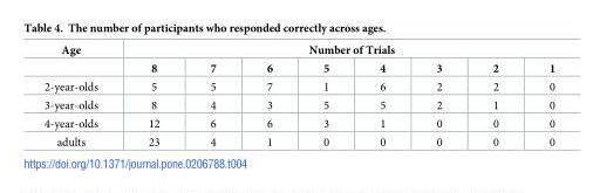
<table><thead><tr><td rowspan="2">Age</td><td colspan="8">Number of Trials</td></tr><tr><td>8</td><td>7</td><td>6</td><td>5</td><td>4</td><td>3</td><td>2</td><td>1</td></tr></thead><tbody><tr><td>2-year-olds</td><td>5</td><td>5</td><td>7</td><td>1</td><td>6</td><td>2</td><td>2</td><td>0</td></tr><tr><td>3-year-olds</td><td>8</td><td>4</td><td>3</td><td>5</td><td>5</td><td>2</td><td>1</td><td>0</td></tr><tr><td>4-year-olds</td><td>12</td><td>6</td><td>6</td><td>3</td><td>1</td><td>0</td><td>0</td><td>0</td></tr><tr><td>adults</td><td>23</td><td>4</td><td>1</td><td>0</td><td>0</td><td>0</td><td>0</td><td>0</td></tr></tbody></table>